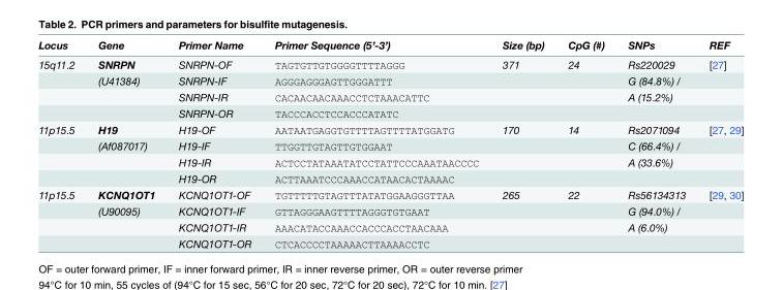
<table><thead><tr><td>Locus</td><td>Gene</td><td>Primer Name</td><td>Primer Sequence (5’-3’)</td><td>Size (bp)</td><td>CpG (#)</td><td>SNPs</td><td>REF</td></tr></thead><tbody><tr><td rowspan="4">15q11.2</td><td>SNRPN</td><td>SNRPN-OF</td><td>TAGTGTTGTGGGGTTTTAGGG</td><td>371</td><td>24</td><td>Rs220029</td><td>[27]</td></tr><tr><td>(U41384)</td><td>SNRPN-IF</td><td>AGGGAGGGAGTTGGGATTT</td><td></td><td></td><td>G (84.8%) /</td><td></td></tr><tr><td></td><td>SNRPN-IR</td><td>CACAACAACAAACCTCTAAACATTC</td><td></td><td></td><td>A (15.2%)</td><td></td></tr><tr><td></td><td>SNRPN-OR</td><td>TACCCACCTCCACCCATATC</td><td></td><td></td><td></td><td></td></tr><tr><td rowspan="4">11p15.5</td><td>H19</td><td>H19-OF</td><td>AATAATGAGGTGTTTTAGTTTTATGGATG</td><td>170</td><td>14</td><td>Rs2071094</td><td>[27, 29]</td></tr><tr><td>(Af087017)</td><td>H19-IF</td><td>TTGGTTGTAGTTGTGGAAT</td><td></td><td></td><td>C (66.4%) /</td><td></td></tr><tr><td></td><td>H19-IR</td><td>ACTCCTATAAATATCCTATTCCCAAATAACCCC</td><td></td><td></td><td>A (33.6%)</td><td></td></tr><tr><td></td><td>H19-OR</td><td>ACTTAAATCCCAAACCATAACACTAAAAC</td><td></td><td></td><td></td><td></td></tr><tr><td rowspan="4">11p15.5</td><td>KCNQ1OT1</td><td>KCNQ1OT1-OF</td><td>TGTTTTTGTAGTTTATATGGAAGGGTTAA</td><td>265</td><td>22</td><td>Rs56134313</td><td>[29, 30]</td></tr><tr><td>(U90095)</td><td>KCNQ1OT1-IF</td><td>GTTAGGGAAGTTTTAGGGTGTGAAT</td><td></td><td></td><td>G (94.0%) /</td><td></td></tr><tr><td></td><td>KCNQ1OT1-IR</td><td>AAACATACCAAACCACCCACCTAACAAA</td><td></td><td></td><td>A (6.0%)</td><td></td></tr><tr><td></td><td>KCNQ1OT1-OR</td><td>CTCACCCCTAAAAACTTAAAACCTC</td><td></td><td></td><td></td><td></td></tr></tbody></table>